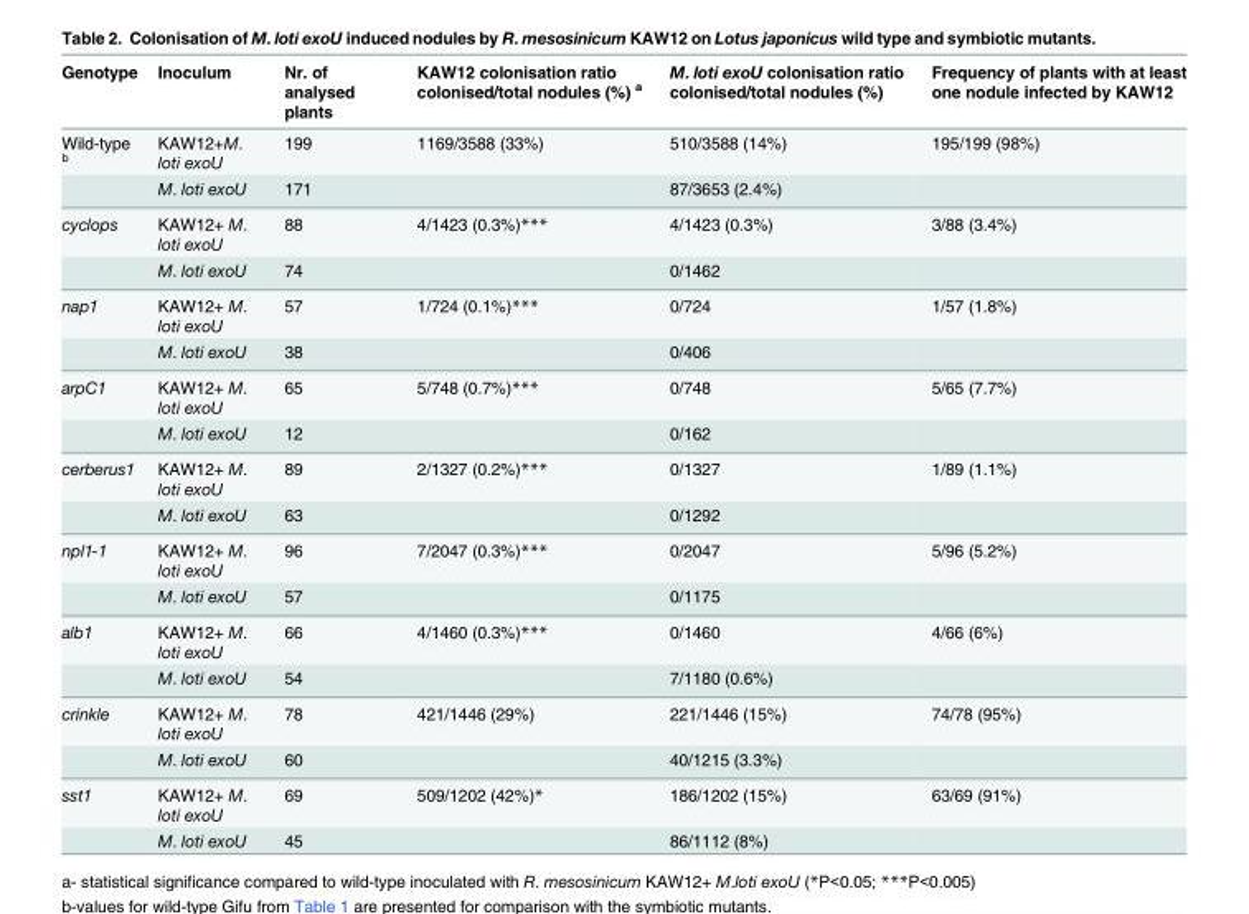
<table><thead><tr><td>Genotype</td><td>Inoculum</td><td>Nr. of analysed plants</td><td>KAW12 colonisation ratio colonised/total nodules (%) <sup>a</sup></td><td>M. loti exoU colonisation ratio colonised/total nodules (%)</td><td>Frequency of plants with at least one nodule infected by KAW12</td></tr></thead><tbody><tr><td rowspan="2">Wild-type <sup>b</sup></td><td>KAW12+M. loti exoU</td><td>199</td><td>1169/3588 (33%)</td><td>510/3588 (14%)</td><td>195/199 (98%)</td></tr><tr><td>M. loti exoU</td><td>171</td><td></td><td>87/3653 (2.4%)</td><td></td></tr><tr><td rowspan="2">cyclops</td><td>KAW12+ M. loti exoU</td><td>88</td><td>4/1423 (0.3%)***</td><td>4/1423 (0.3%)</td><td>3/88 (3.4%)</td></tr><tr><td>M. loti exoU</td><td>74</td><td></td><td>0/1462</td><td></td></tr><tr><td rowspan="2">nap1</td><td>KAW12+ M. loti exoU</td><td>57</td><td>1/724 (0.1%)***</td><td>0/724</td><td>1/57 (1.8%)</td></tr><tr><td>M. loti exoU</td><td>38</td><td></td><td>0/406</td><td></td></tr><tr><td rowspan="2">arpC1</td><td>KAW12+ M. loti exoU</td><td>65</td><td>5/748 (0.7%)***</td><td>0/748</td><td>5/65 (7.7%)</td></tr><tr><td>M. loti exoU</td><td>12</td><td></td><td>0/162</td><td></td></tr><tr><td rowspan="2">cerberus1</td><td>KAW12+ M. loti exoU</td><td>89</td><td>2/1327 (0.2%)***</td><td>0/1327</td><td>1/89 (1.1%)</td></tr><tr><td>M. loti exoU</td><td>63</td><td></td><td>0/1292</td><td></td></tr><tr><td rowspan="2">npl1-1</td><td>KAW12+ M. loti exoU</td><td>96</td><td>7/2047 (0.3%)***</td><td>0/2047</td><td>5/96 (5.2%)</td></tr><tr><td>M. loti exoU</td><td>57</td><td></td><td>0/1175</td><td></td></tr><tr><td rowspan="2">alb1</td><td>KAW12+ M. loti exoU</td><td>66</td><td>4/1460 (0.3%)***</td><td>0/1460</td><td>4/66 (6%)</td></tr><tr><td>M. loti exoU</td><td>54</td><td></td><td>7/1180 (0.6%)</td><td></td></tr><tr><td rowspan="2">crinkle</td><td>KAW12+ M. loti exoU</td><td>78</td><td>421/1446 (29%)</td><td>221/1446 (15%)</td><td>74/78 (95%)</td></tr><tr><td>M. loti exoU</td><td>60</td><td></td><td>40/1215 (3.3%)</td><td></td></tr><tr><td rowspan="2">sst1</td><td>KAW12+ M. loti exoU</td><td>69</td><td>509/1202 (42%)*</td><td>186/1202 (15%)</td><td>63/69 (91%)</td></tr><tr><td>M. loti exoU</td><td>45</td><td></td><td>86/1112 (8%)</td><td></td></tr></tbody></table>